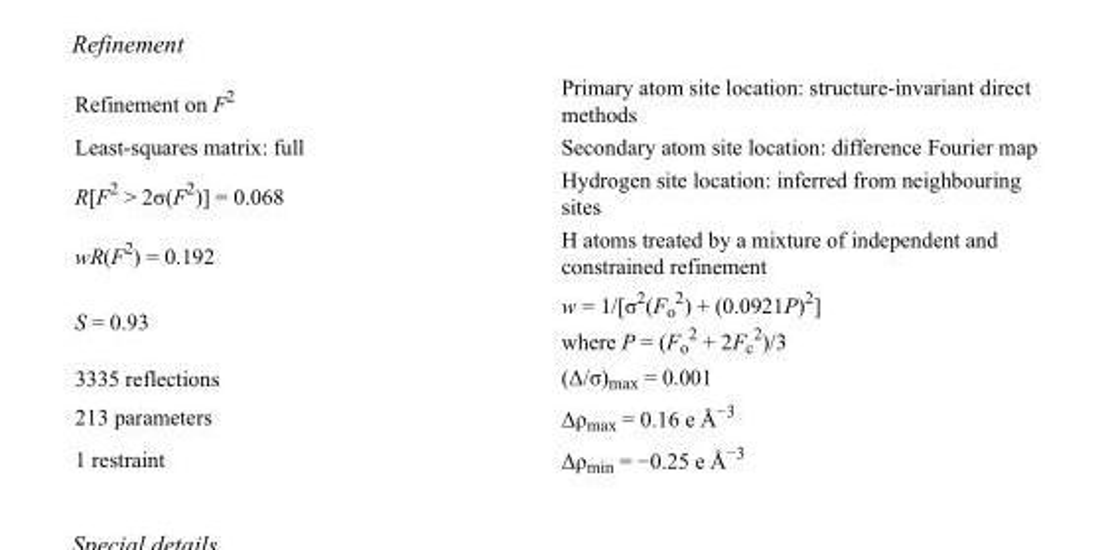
<table><tbody><tr><td>Refinement on F<sup>2</sup></td><td>Primary atom site location: structure-invariant direct methods</td></tr><tr><td>Least-squares matrix: full</td><td>Secondary atom site location: difference Fourier map</td></tr><tr><td>R[F<sup>2</sup> &gt; 2σ(F<sup>2</sup>)] = 0.068</td><td>Hydrogen site location: inferred from neighbouring sites</td></tr><tr><td>wR(F<sup>2</sup>) = 0.192</td><td>H atoms treated by a mixture of independent and constrained refinement</td></tr><tr><td>S = 0.93</td><td>w = 1/[σ<sup>2</sup>(F<sub>o</sub> <sup>2</sup>) + (0.0921P)<sup>2</sup>] where P = (F<sub>o</sub> <sup>2</sup> + 2F<sub>c</sub> <sup>2</sup>)/3</td></tr><tr><td>3335 reflections</td><td>(Δ/σ)<sub>max</sub> = 0.001</td></tr><tr><td>213 parameters</td><td>Δρ<sub>max</sub> = 0.16 e Å<sup>−3</sup></td></tr><tr><td>1 restraint</td><td>Δρ<sub>min</sub> = −0.25 e Å<sup>−3</sup></td></tr></tbody></table>